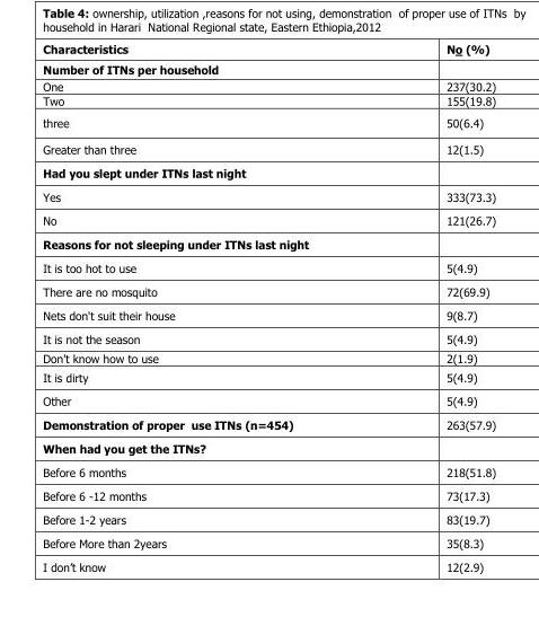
<table><thead><tr><td>Characteristics</td><td>No (%)</td></tr></thead><tbody><tr><td colspan="2">Number of ITNs per household</td></tr><tr><td>One</td><td>237(30.2)</td></tr><tr><td>Two</td><td>155(19.8)</td></tr><tr><td>three</td><td>50(6.4)</td></tr><tr><td>Greater than three</td><td>12(1.5)</td></tr><tr><td colspan="2">Had you slept under ITNs last night</td></tr><tr><td>Yes</td><td>333(73.3)</td></tr><tr><td>No</td><td>121(26.7)</td></tr><tr><td colspan="2">Reasons for not sleeping under ITNs last night</td></tr><tr><td>It is too hot to use</td><td>5(4.9)</td></tr><tr><td>There are no mosquito</td><td>72(69.9)</td></tr><tr><td>Nets don&#x27;t suit their house</td><td>9(8.7)</td></tr><tr><td>It is not the season</td><td>5(4.9)</td></tr><tr><td>Don&#x27;t know how to use</td><td>2(1.9)</td></tr><tr><td>It is dirty</td><td>5(4.9)</td></tr><tr><td>Other</td><td>5(4.9)</td></tr><tr><td>Demonstration of proper use ITNs (n=454)</td><td>263(57.9)</td></tr><tr><td colspan="2">When had you get the ITNs?</td></tr><tr><td>Before 6 months</td><td>218(51.8)</td></tr><tr><td>Before 6 -12 months</td><td>73(17.3)</td></tr><tr><td>Before 1-2 years</td><td>83(19.7)</td></tr><tr><td>Before More than 2years</td><td>35(8.3)</td></tr><tr><td>I don’t know</td><td>12(2.9)</td></tr></tbody></table>